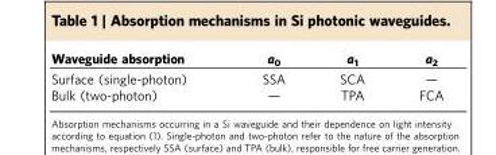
<table><thead><tr><td>Waveguide absorption</td><td>a<sub>0</sub></td><td>a<sub>1</sub></td><td>a<sub>2</sub></td></tr></thead><tbody><tr><td>Surface (single-photon)</td><td>SSA</td><td>SCA</td><td>—</td></tr><tr><td>Bulk (two-photon)</td><td>—</td><td>TPA</td><td>FCA</td></tr></tbody></table>